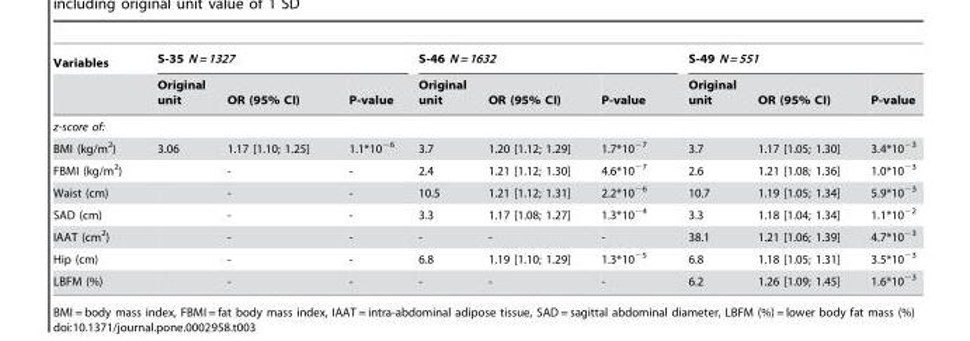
<table><thead><tr><td rowspan="2">Variables</td><td colspan="3">S-35 N = 1327</td><td colspan="3">S-46 N = 1632</td><td colspan="3">S-49 N = 551</td></tr><tr><td>Original unit</td><td>OR (95% CI)</td><td>P-value</td><td>Original unit</td><td>OR (95% CI)</td><td>P-value</td><td>Original unit</td><td>OR (95% CI)</td><td>P-value</td></tr></thead><tbody><tr><td colspan="10">z-score of:</td></tr><tr><td>BMI (kg/m<sup>2</sup>)</td><td>3.06</td><td>1.17 [1.10; 1.25]</td><td>1.1*10<sup>−6</sup></td><td>3.7</td><td>1.20 [1.12; 1.29]</td><td>1.7*10<sup>−7</sup></td><td>3.7</td><td>1.17 [1.05; 1.30]</td><td>3.4*10<sup>−3</sup></td></tr><tr><td>FBMI (kg/m<sup>2</sup>)</td><td></td><td>-</td><td>-</td><td>2.4</td><td>1.21 [1.12; 1.30]</td><td>4.6*10<sup>−7</sup></td><td>2.6</td><td>1.21 [1.08; 1.36]</td><td>1.0*10<sup>−3</sup></td></tr><tr><td>Waist (cm)</td><td></td><td>-</td><td>-</td><td>10.5</td><td>1.21 [1.12; 1.31]</td><td>2.2*10<sup>−6</sup></td><td>10.7</td><td>1.19 [1.05; 1.34]</td><td>5.9*10<sup>−3</sup></td></tr><tr><td>SAD (cm)</td><td></td><td>-</td><td>-</td><td>3.3</td><td>1.17 [1.08; 1.27]</td><td>1.3*10<sup>−4</sup></td><td>3.3</td><td>1.18 [1.04; 1.34]</td><td>1.1*10<sup>−2</sup></td></tr><tr><td>IAAT (cm<sup>2</sup>)</td><td></td><td>-</td><td>-</td><td>-</td><td>-</td><td>-</td><td>38.1</td><td>1.21 [1.06; 1.39]</td><td>4.7*10<sup>−3</sup></td></tr><tr><td>Hip (cm)</td><td></td><td>-</td><td>-</td><td>6.8</td><td>1.19 [1.10; 1.29]</td><td>1.3*10<sup>−5</sup></td><td>6.8</td><td>1.18 [1.05; 1.31]</td><td>3.5*10<sup>−3</sup></td></tr><tr><td>LBFM (%)</td><td></td><td>-</td><td>-</td><td>-</td><td>-</td><td>-</td><td>6.2</td><td>1.26 [1.09; 1.45]</td><td>1.6*10<sup>−3</sup></td></tr></tbody></table>